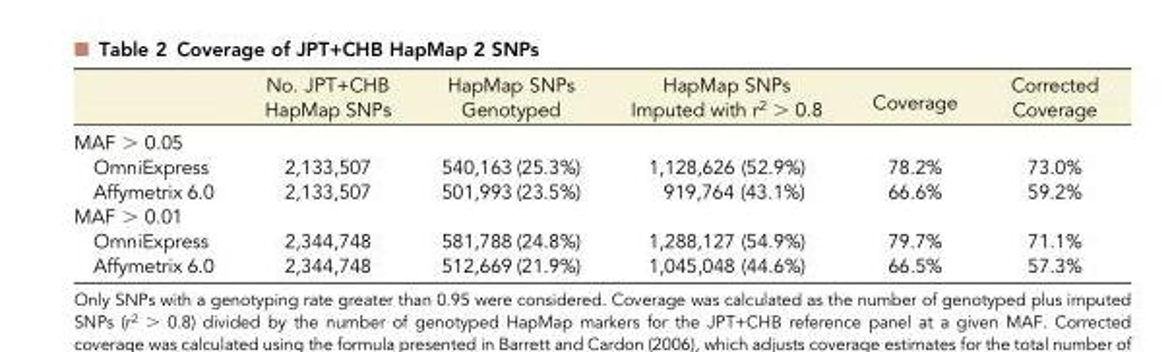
<table><thead><tr><td></td><td>No. JPT+CHB HapMap SNPs</td><td>HapMap SNPs Genotyped</td><td>HapMap SNPs Imputed with r<sup>2</sup> &gt; 0.8</td><td>Coverage</td><td>Corrected Coverage</td></tr></thead><tbody><tr><td colspan="6">MAF &gt; 0.05</td></tr><tr><td>OmniExpress</td><td>2,133,507</td><td>540,163 (25.3%)</td><td>1,128,626 (52.9%)</td><td>78.2%</td><td>73.0%</td></tr><tr><td>Affymetrix 6.0</td><td>2,133,507</td><td>501,993 (23.5%)</td><td>919,764 (43.1%)</td><td>66.6%</td><td>59.2%</td></tr><tr><td colspan="6">MAF &gt; 0.01</td></tr><tr><td>OmniExpress</td><td>2,344,748</td><td>581,788 (24.8%)</td><td>1,288,127 (54.9%)</td><td>79.7%</td><td>71.1%</td></tr><tr><td>Affymetrix 6.0</td><td>2,344,748</td><td>512,669 (21.9%)</td><td>1,045,048 (44.6%)</td><td>66.5%</td><td>57.3%</td></tr></tbody></table>